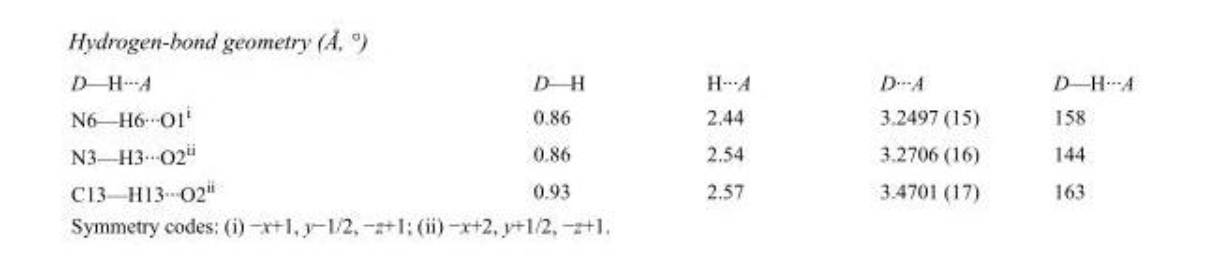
<table><tbody><tr><td>D—H···A</td><td>D—H</td><td>H···A</td><td>D···A</td><td>D—H···A</td></tr><tr><td>N6—H6···O1<sup>i</sup></td><td>0.86</td><td>2.44</td><td>3.2497 (15)</td><td>158</td></tr><tr><td>N3—H3···O2<sup>ii</sup></td><td>0.86</td><td>2.54</td><td>3.2706 (16)</td><td>144</td></tr><tr><td>C13—H13···O2<sup>ii</sup></td><td>0.93</td><td>2.57</td><td>3.4701 (17)</td><td>163</td></tr></tbody></table>